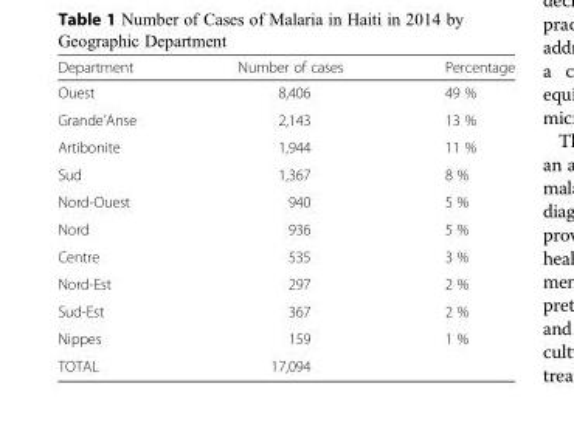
<table><thead><tr><td>Department</td><td>Number of cases</td><td>Percentage</td></tr></thead><tbody><tr><td>Ouest</td><td>8,406</td><td>49 %</td></tr><tr><td>Grande’Anse</td><td>2,143</td><td>13 %</td></tr><tr><td>Artibonite</td><td>1,944</td><td>11 %</td></tr><tr><td>Sud</td><td>1,367</td><td>8 %</td></tr><tr><td>Nord-Ouest</td><td>940</td><td>5 %</td></tr><tr><td>Nord</td><td>936</td><td>5 %</td></tr><tr><td>Centre</td><td>535</td><td>3 %</td></tr><tr><td>Nord-Est</td><td>297</td><td>2 %</td></tr><tr><td>Sud-Est</td><td>367</td><td>2 %</td></tr><tr><td>Nippes</td><td>159</td><td>1 %</td></tr><tr><td>TOTAL</td><td>17,094</td><td></td></tr></tbody></table>